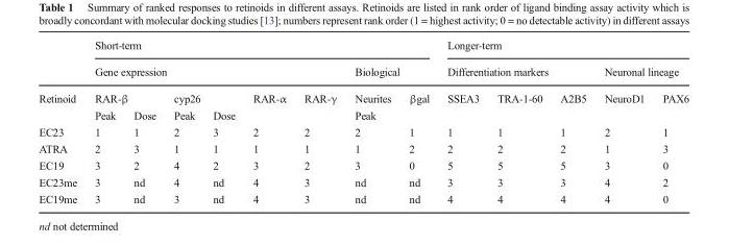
<table><thead><tr><td rowspan="4">Retinoid</td><td colspan="8">Short-term</td><td colspan="5">Longer-term</td></tr><tr><td colspan="6">Gene expression</td><td colspan="2">Biological</td><td colspan="3">Differentiation markers</td><td colspan="2">Neuronal lineage</td></tr><tr><td colspan="2">RAR-β</td><td colspan="2">cyp26</td><td rowspan="2">RAR-α</td><td rowspan="2">RAR-γ</td><td rowspan="2">Neurites Peak</td><td rowspan="2">βgal</td><td rowspan="2">SSEA3</td><td rowspan="2">TRA-1-60</td><td rowspan="2">A2B5</td><td rowspan="2">NeuroD1</td><td rowspan="2">PAX6</td></tr><tr><td>Peak</td><td>Dose</td><td>Peak</td><td>Dose</td></tr></thead><tbody><tr><td>EC23</td><td>1</td><td>1</td><td>2</td><td>3</td><td>2</td><td>2</td><td>2</td><td>1</td><td>1</td><td>1</td><td>1</td><td>2</td><td>1</td></tr><tr><td>ATRA</td><td>2</td><td>3</td><td>1</td><td>1</td><td>1</td><td>1</td><td>1</td><td>2</td><td>2</td><td>2</td><td>2</td><td>1</td><td>3</td></tr><tr><td>EC19</td><td>3</td><td>2</td><td>4</td><td>2</td><td>3</td><td>2</td><td>3</td><td>0</td><td>5</td><td>5</td><td>5</td><td>3</td><td>0</td></tr><tr><td>EC23me</td><td>3</td><td>nd</td><td>4</td><td>nd</td><td>4</td><td>3</td><td>nd</td><td>nd</td><td>3</td><td>3</td><td>3</td><td>4</td><td>2</td></tr><tr><td>EC19me</td><td>3</td><td>nd</td><td>3</td><td>nd</td><td>4</td><td>3</td><td>nd</td><td>nd</td><td>4</td><td>4</td><td>4</td><td>4</td><td>0</td></tr></tbody></table>